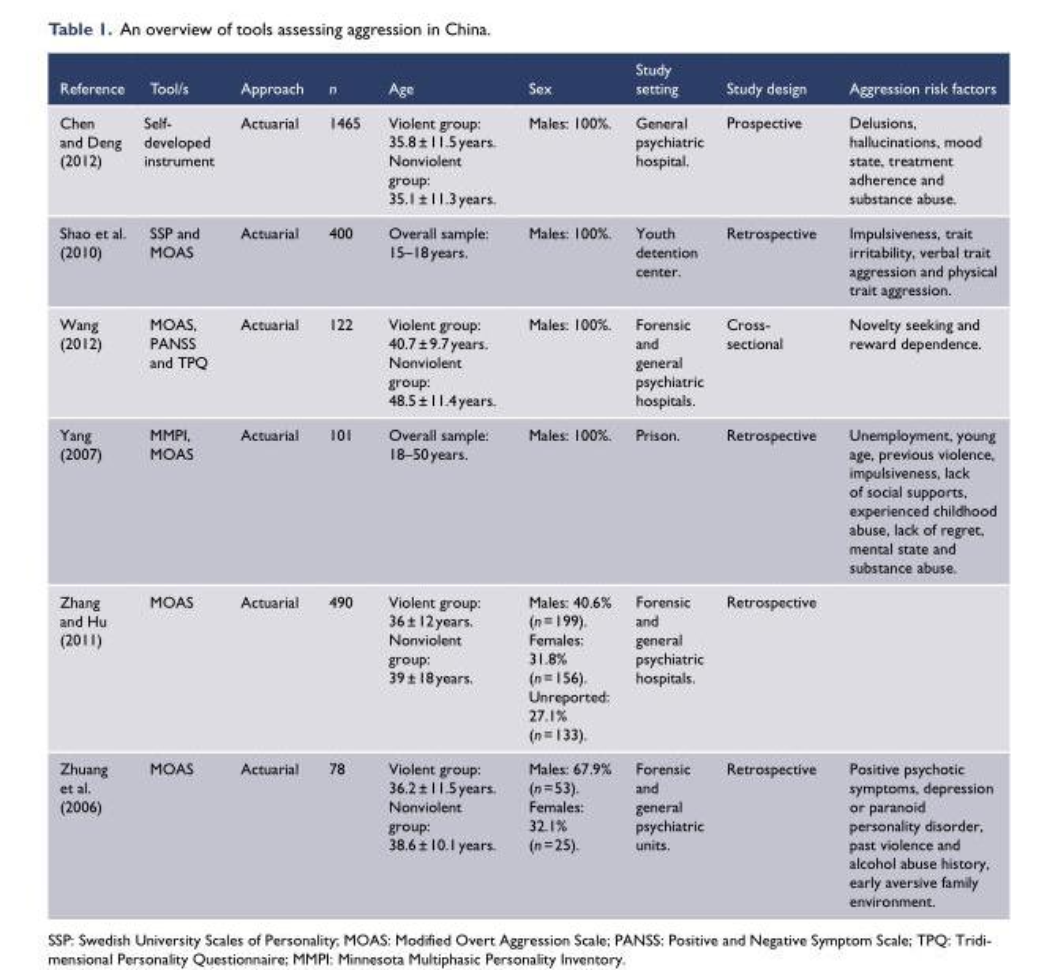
<table><thead><tr><td>Reference</td><td>Tool/s</td><td>Approach</td><td>n</td><td>Age</td><td>Sex</td><td>Study setting</td><td>Study design</td><td>Aggression risk factors</td></tr></thead><tbody><tr><td>Chen and Deng (2012)</td><td>Self- developed instrument</td><td>Actuarial</td><td>1465</td><td>Violent group: 35.8 ± 11.5 years. Nonviolent group: 35.1 ± 11.3 years.</td><td>Males: 100%.</td><td>General psychiatric hospital.</td><td>Prospective</td><td>Delusions, hallucinations, mood state, treatment adherence and substance abuse.</td></tr><tr><td>Shao et al. (2010)</td><td>SSP and MOAS</td><td>Actuarial</td><td>400</td><td>Overall sample: 15–18 years.</td><td>Males: 100%.</td><td>Youth detention center.</td><td>Retrospective</td><td>Impulsiveness, trait irritability, verbal trait aggression and physical trait aggression.</td></tr><tr><td>Wang (2012)</td><td>MOAS, PANSS and TPQ</td><td>Actuarial</td><td>122</td><td>Violent group: 40.7 ± 9.7 years. Nonviolent group: 48.5 ± 11.4 years.</td><td>Males: 100%.</td><td>Forensic and general psychiatric hospitals.</td><td>Cross- sectional</td><td>Novelty seeking and reward dependence.</td></tr><tr><td>Yang (2007)</td><td>MMPI, MOAS</td><td>Actuarial</td><td>101</td><td>Overall sample: 18–50 years.</td><td>Males: 100%.</td><td>Prison.</td><td>Retrospective</td><td>Unemployment, young age, previous violence, impulsiveness, lack of social supports, experienced childhood abuse, lack of regret, mental state and substance abuse.</td></tr><tr><td>Zhang and Hu (2011)</td><td>MOAS</td><td>Actuarial</td><td>490</td><td>Violent group: 36 ± 12 years. Nonviolent group: 39 ± 18 years.</td><td>Males: 40.6% (n = 199). Females: 31.8% (n = 156). Unreported: 27.1% (n = 133).</td><td>Forensic and general psychiatric hospitals.</td><td>Retrospective</td><td></td></tr><tr><td>Zhuang et al. (2006)</td><td>MOAS</td><td>Actuarial</td><td>78</td><td>Violent group: 36.2 ± 11.5 years. Nonviolent group: 38.6 ± 10.1 years.</td><td>Males: 67.9% (n = 53). Females: 32.1% (n = 25).</td><td>Forensic and general psychiatric units.</td><td>Retrospective</td><td>Positive psychotic symptoms, depression or paranoid personality disorder, past violence and alcohol abuse history, early aversive family environment.</td></tr></tbody></table>